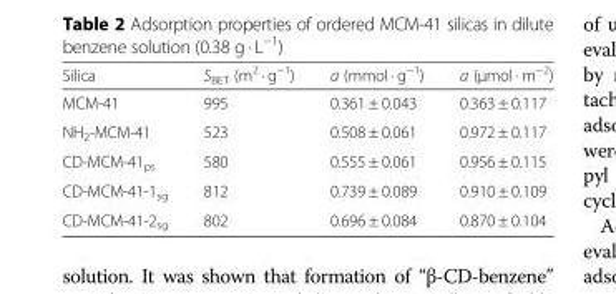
<table><thead><tr><td>Silica</td><td>S<sub>BET</sub> (m<sup>2</sup> · g<sup>−1</sup>)</td><td>a (mmol · g<sup>−1</sup>)</td><td>a (μmol · m<sup>−2</sup>)</td></tr></thead><tbody><tr><td>MCM-41</td><td>995</td><td>0.361 ± 0.043</td><td>0.363 ± 0.117</td></tr><tr><td>NH<sub>2</sub>-MCM-41</td><td>523</td><td>0.508 ± 0.061</td><td>0.972 ± 0.117</td></tr><tr><td>CD-MCM-41<sub>ps</sub></td><td>580</td><td>0.555 ± 0.061</td><td>0.956 ± 0.115</td></tr><tr><td>CD-MCM-41-1<sub>sg</sub></td><td>812</td><td>0.739 ± 0.089</td><td>0.910 ± 0.109</td></tr><tr><td>CD-MCM-41-2<sub>sg</sub></td><td>802</td><td>0.696 ± 0.084</td><td>0.870 ± 0.104</td></tr></tbody></table>